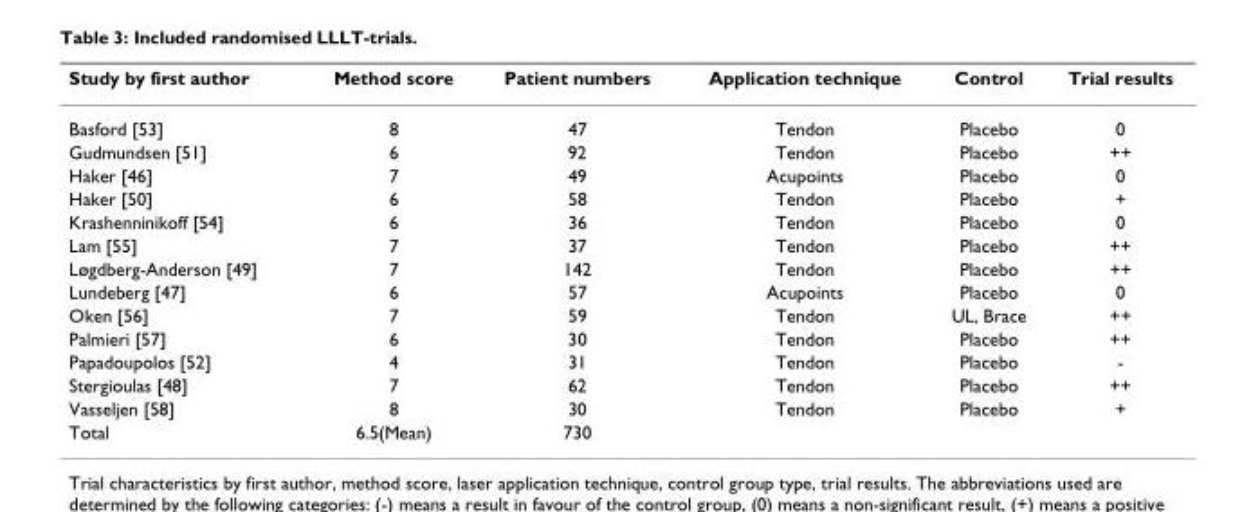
<table><thead><tr><td>Study by first author</td><td>Method score</td><td>Patient numbers</td><td>Application technique</td><td>Control</td><td>Trial results</td></tr></thead><tbody><tr><td>Basford [53]</td><td>8</td><td>47</td><td>Tendon</td><td>Placebo</td><td>0</td></tr><tr><td>Gudmundsen [51]</td><td>6</td><td>92</td><td>Tendon</td><td>Placebo</td><td>++</td></tr><tr><td>Haker [46]</td><td>7</td><td>49</td><td>Acupoints</td><td>Placebo</td><td>0</td></tr><tr><td>Haker [50]</td><td>6</td><td>58</td><td>Tendon</td><td>Placebo</td><td>+</td></tr><tr><td>Krashenninikoff [54]</td><td>6</td><td>36</td><td>Tendon</td><td>Placebo</td><td>0</td></tr><tr><td>Lam [55]</td><td>7</td><td>37</td><td>Tendon</td><td>Placebo</td><td>++</td></tr><tr><td>Løgdberg-Anderson [49]</td><td>7</td><td>142</td><td>Tendon</td><td>Placebo</td><td>++</td></tr><tr><td>Lundeberg [47]</td><td>6</td><td>57</td><td>Acupoints</td><td>Placebo</td><td>0</td></tr><tr><td>Oken [56]</td><td>7</td><td>59</td><td>Tendon</td><td>UL, Brace</td><td>++</td></tr><tr><td>Palmieri [57]</td><td>6</td><td>30</td><td>Tendon</td><td>Placebo</td><td>++</td></tr><tr><td>Papadoupolos [52]</td><td>4</td><td>31</td><td>Tendon</td><td>Placebo</td><td>-</td></tr><tr><td>Stergioulas [48]</td><td>7</td><td>62</td><td>Tendon</td><td>Placebo</td><td>++</td></tr><tr><td>Vasseljen [58]</td><td>8</td><td>30</td><td>Tendon</td><td>Placebo</td><td>+</td></tr><tr><td>Total</td><td>6.5(Mean)</td><td>730</td><td></td><td></td><td></td></tr></tbody></table>